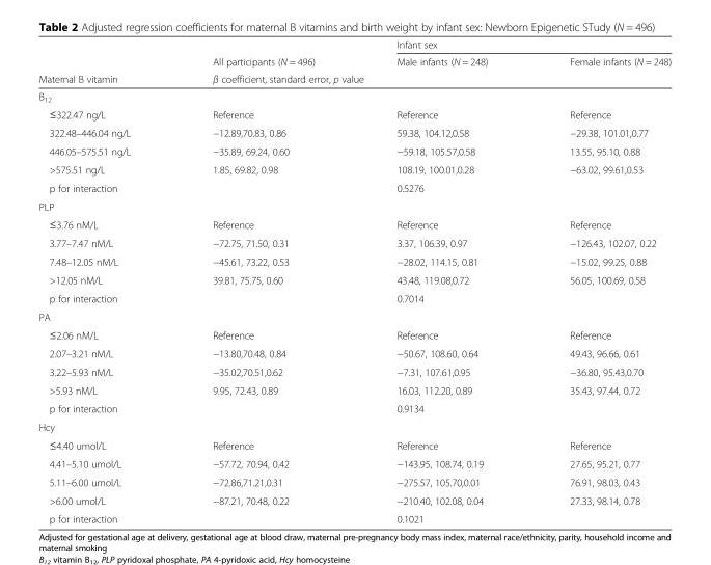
<table><thead><tr><td rowspan="3">Maternal B vitamin</td><td rowspan="2">All participants (N = 496)</td><td colspan="2">Infant sex</td></tr><tr><td>Male infants (N = 248)</td><td>Female infants (N = 248)</td></tr><tr><td colspan="3">β coefficient, standard error, p value</td></tr></thead><tbody><tr><td colspan="4">B<sub>12</sub></td></tr><tr><td>≤322.47 ng/L</td><td>Reference</td><td>Reference</td><td>Reference</td></tr><tr><td>322.48–446.04 ng/L</td><td>−12.89,70.83, 0.86</td><td>59.38, 104.12,0.58</td><td>−29.38, 101.01,0.77</td></tr><tr><td>446.05–575.51 ng/L</td><td>−35.89, 69.24, 0.60</td><td>−59.18, 105.57,0.58</td><td>13.55, 95.10, 0.88</td></tr><tr><td>&gt;575.51 ng/L</td><td>1.85, 69.82, 0.98</td><td>108.19, 100.01,0.28</td><td>−63.02, 99.61,0.53</td></tr><tr><td colspan="2">p for interaction</td><td colspan="2">0.5276</td></tr><tr><td colspan="4">PLP</td></tr><tr><td>≤3.76 nM/L</td><td>Reference</td><td>Reference</td><td>Reference</td></tr><tr><td>3.77–7.47 nM/L</td><td>−72.75, 71.50, 0.31</td><td>3.37, 106.39, 0.97</td><td>−126.43, 102.07, 0.22</td></tr><tr><td>7.48–12.05 nM/L</td><td>−45.61, 73.22, 0.53</td><td>−28.02, 114.15, 0.81</td><td>−15.02, 99.25, 0.88</td></tr><tr><td>&gt;12.05 nM/L</td><td>39.81, 75.75, 0.60</td><td>43.48, 119.08,0.72</td><td>56.05, 100.69, 0.58</td></tr><tr><td colspan="2">p for interaction</td><td colspan="2">0.7014</td></tr><tr><td colspan="4">PA</td></tr><tr><td>≤2.06 nM/L</td><td>Reference</td><td>Reference</td><td>Reference</td></tr><tr><td>2.07–3.21 nM/L</td><td>−13.80,70.48, 0.84</td><td>−50.67, 108.60, 0.64</td><td>49.43, 96.66, 0.61</td></tr><tr><td>3.22–5.93 nM/L</td><td>−35.02,70.51,0.62</td><td>−7.31, 107.61,0.95</td><td>−36.80, 95.43,0.70</td></tr><tr><td>&gt;5.93 nM/L</td><td>9.95, 72.43, 0.89</td><td>16.03, 112.20, 0.89</td><td>35.43, 97.44, 0.72</td></tr><tr><td colspan="2">p for interaction</td><td colspan="2">0.9134</td></tr><tr><td colspan="4">Hcy</td></tr><tr><td>≤4.40 umol/L</td><td>Reference</td><td>Reference</td><td>Reference</td></tr><tr><td>4.41–5.10 umol/L</td><td>−57.72, 70.94, 0.42</td><td>−143.95, 108.74, 0.19</td><td>27.65, 95.21, 0.77</td></tr><tr><td>5.11–6.00 umol/L</td><td>−72.86,71.21,0.31</td><td>−275.57, 105.70,0.01</td><td>76.91, 98.03, 0.43</td></tr><tr><td>&gt;6.00 umol/L</td><td>−87.21, 70.48, 0.22</td><td>−210.40, 102.08, 0.04</td><td>27.33, 98.14, 0.78</td></tr><tr><td colspan="2">p for interaction</td><td colspan="2">0.1021</td></tr></tbody></table>